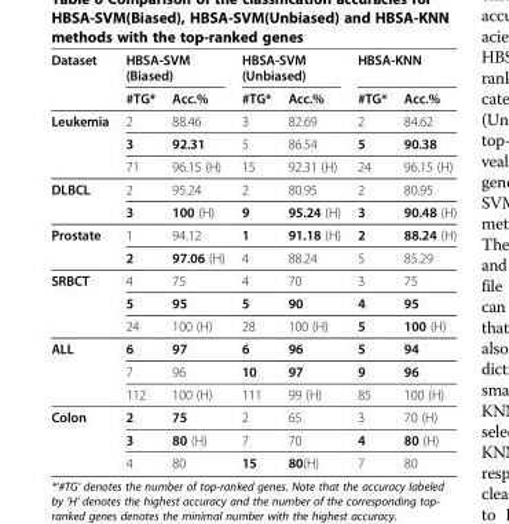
<table><thead><tr><td rowspan="2">Dataset</td><td colspan="2">HBSA-SVM (Biased)</td><td colspan="2">HBSA-SVM (Unbiased)</td><td colspan="2">HBSA-KNN</td></tr><tr><td>#TG*</td><td>Acc.%</td><td>#TG*</td><td>Acc.%</td><td>#TG*</td><td>Acc.%</td></tr></thead><tbody><tr><td rowspan="3">Leukemia</td><td>2</td><td>88.46</td><td>3</td><td>82.69</td><td>2</td><td>84.62</td></tr><tr><td>3</td><td>92.31</td><td>5</td><td>86.54</td><td>5</td><td>90.38</td></tr><tr><td>71</td><td>96.15 (H)</td><td>15</td><td>92.31 (H)</td><td>24</td><td>96.15 (H)</td></tr><tr><td rowspan="2">DLBCL</td><td>2</td><td>95.24</td><td>2</td><td>80.95</td><td>2</td><td>80.95</td></tr><tr><td>3</td><td>100 (H)</td><td>9</td><td>95.24 (H)</td><td>3</td><td>90.48 (H)</td></tr><tr><td rowspan="2">Prostate</td><td>1</td><td>94.12</td><td>1</td><td>91.18 (H)</td><td>2</td><td>88.24 (H)</td></tr><tr><td>2</td><td>97.06 (H)</td><td>4</td><td>88.24</td><td>5</td><td>85.29</td></tr><tr><td rowspan="3">SRBCT</td><td>4</td><td>75</td><td>4</td><td>70</td><td>3</td><td>75</td></tr><tr><td>5</td><td>95</td><td>5</td><td>90</td><td>4</td><td>95</td></tr><tr><td>24</td><td>100 (H)</td><td>28</td><td>100 (H)</td><td>5</td><td>100 (H)</td></tr><tr><td rowspan="3">ALL</td><td>6</td><td>97</td><td>6</td><td>96</td><td>5</td><td>94</td></tr><tr><td>7</td><td>96</td><td>10</td><td>97</td><td>9</td><td>96</td></tr><tr><td>112</td><td>100 (H)</td><td>111</td><td>99 (H)</td><td>85</td><td>100 (H)</td></tr><tr><td rowspan="3">Colon</td><td>2</td><td>75</td><td>2</td><td>65</td><td>3</td><td>70 (H)</td></tr><tr><td>3</td><td>80 (H)</td><td>7</td><td>70</td><td>4</td><td>80 (H)</td></tr><tr><td>4</td><td>80</td><td>15</td><td>80(H)</td><td>7</td><td>80</td></tr></tbody></table>